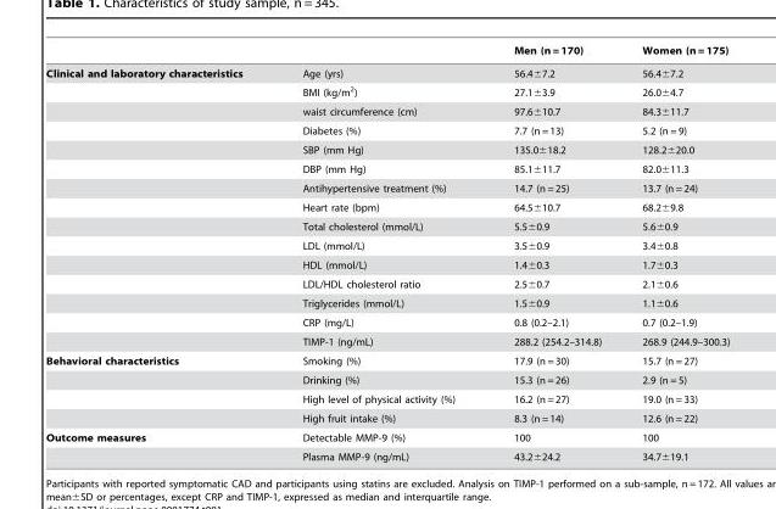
<table><thead><tr><td></td><td></td><td>Men (n = 170)</td><td>Women (n = 175)</td></tr></thead><tbody><tr><td rowspan="15">Clinical and laboratory characteristics</td><td>Age (yrs)</td><td>56.4±7.2</td><td>56.4±7.2</td></tr><tr><td>BMI (kg/m<sup>2</sup>)</td><td>27.1±3.9</td><td>26.0±4.7</td></tr><tr><td>waist circumference (cm)</td><td>97.6±10.7</td><td>84.3±11.7</td></tr><tr><td>Diabetes (%)</td><td>7.7 (n = 13)</td><td>5.2 (n = 9)</td></tr><tr><td>SBP (mm Hg)</td><td>135.0±18.2</td><td>128.2±20.0</td></tr><tr><td>DBP (mm Hg)</td><td>85.1±11.7</td><td>82.0±11.3</td></tr><tr><td>Antihypertensive treatment (%)</td><td>14.7 (n = 25)</td><td>13.7 (n = 24)</td></tr><tr><td>Heart rate (bpm)</td><td>64.5±10.7</td><td>68.2±9.8</td></tr><tr><td>Total cholesterol (mmol/L)</td><td>5.5±0.9</td><td>5.6±0.9</td></tr><tr><td>LDL (mmol/L)</td><td>3.5±0.9</td><td>3.4±0.8</td></tr><tr><td>HDL (mmol/L)</td><td>1.4±0.3</td><td>1.7±0.3</td></tr><tr><td>LDL/HDL cholesterol ratio</td><td>2.5±0.7</td><td>2.1±0.6</td></tr><tr><td>Triglycerides (mmol/L)</td><td>1.5±0.9</td><td>1.1±0.6</td></tr><tr><td>CRP (mg/L)</td><td>0.8 (0.2–2.1)</td><td>0.7 (0.2–1.9)</td></tr><tr><td>TIMP-1 (ng/mL)</td><td>288.2 (254.2–314.8)</td><td>268.9 (244.9–300.3)</td></tr><tr><td rowspan="4">Behavioral characteristics</td><td>Smoking (%)</td><td>17.9 (n = 30)</td><td>15.7 (n = 27)</td></tr><tr><td>Drinking (%)</td><td>15.3 (n = 26)</td><td>2.9 (n = 5)</td></tr><tr><td>High level of physical activity (%)</td><td>16.2 (n = 27)</td><td>19.0 (n = 33)</td></tr><tr><td>High fruit intake (%)</td><td>8.3 (n = 14)</td><td>12.6 (n = 22)</td></tr><tr><td rowspan="2">Outcome measures</td><td>Detectable MMP-9 (%)</td><td>100</td><td>100</td></tr><tr><td>Plasma MMP-9 (ng/mL)</td><td>43.2±24.2</td><td>34.7±19.1</td></tr></tbody></table>